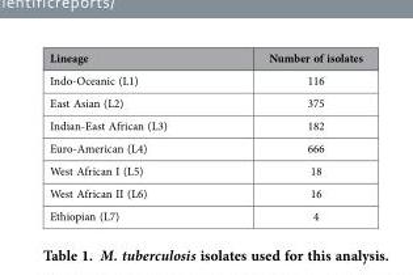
<table><thead><tr><td>Lineage</td><td>Number of isolates</td></tr></thead><tbody><tr><td>Indo-Oceanic (L1)</td><td>116</td></tr><tr><td>East Asian (L2)</td><td>375</td></tr><tr><td>Indian-East African (L3)</td><td>182</td></tr><tr><td>Euro-American (L4)</td><td>666</td></tr><tr><td>West African I (L5)</td><td>18</td></tr><tr><td>West African II (L6)</td><td>16</td></tr><tr><td>Ethiopian (L7)</td><td>4</td></tr></tbody></table>